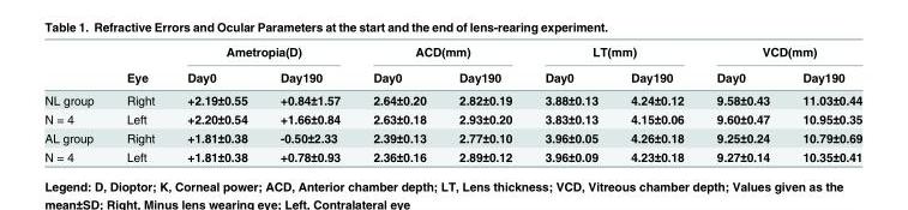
<table><thead><tr><td rowspan="2"></td><td rowspan="2">Eye</td><td colspan="2">Ametropia(D)</td><td colspan="2">ACD(mm)</td><td colspan="2">LT(mm)</td><td colspan="2">VCD(mm)</td></tr><tr><td>Day0</td><td>Day190</td><td>Day0</td><td>Day190</td><td>Day0</td><td>Day190</td><td>Day0</td><td>Day190</td></tr></thead><tbody><tr><td>NL group</td><td>Right</td><td>+2.19±0.55</td><td>+0.84±1.57</td><td>2.64±0.20</td><td>2.82±0.19</td><td>3.88±0.13</td><td>4.24±0.12</td><td>9.58±0.43</td><td>11.03±0.44</td></tr><tr><td>N = 4</td><td>Left</td><td>+2.20±0.54</td><td>+1.66±0.84</td><td>2.63±0.18</td><td>2.93±0.20</td><td>3.83±0.13</td><td>4.15±0.06</td><td>9.60±0.47</td><td>10.95±0.35</td></tr><tr><td>AL group</td><td>Right</td><td>+1.81±0.38</td><td>-0.50±2.33</td><td>2.39±0.13</td><td>2.77±0.10</td><td>3.96±0.05</td><td>4.26±0.18</td><td>9.25±0.24</td><td>10.79±0.69</td></tr><tr><td>N = 4</td><td>Left</td><td>+1.81±0.38</td><td>+0.78±0.93</td><td>2.36±0.16</td><td>2.89±0.12</td><td>3.96±0.09</td><td>4.23±0.18</td><td>9.27±0.14</td><td>10.35±0.41</td></tr></tbody></table>